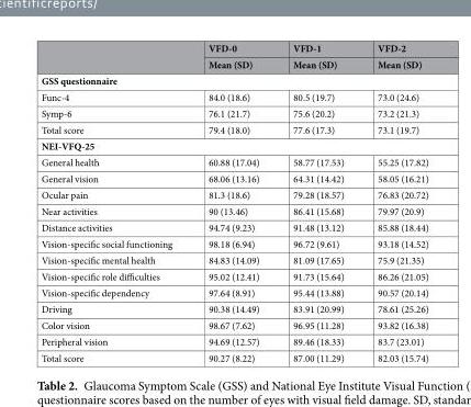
<table><thead><tr><td rowspan="2"></td><td rowspan="2">VFD-0 Mean (SD)</td><td rowspan="2">VFD-1 Mean (SD)</td><td rowspan="2">VFD-2 Mean (SD)</td></tr><tr></tr></thead><tbody><tr><td colspan="4">GSS questionnaire</td></tr><tr><td>Func-4</td><td>84.0 (18.6)</td><td>80.5 (19.7)</td><td>73.0 (24.6)</td></tr><tr><td>Symp-6</td><td>76.1 (21.7)</td><td>75.6 (20.2)</td><td>73.2 (21.3)</td></tr><tr><td>Total score</td><td>79.4 (18.0)</td><td>77.6 (17.3)</td><td>73.1 (19.7)</td></tr><tr><td colspan="4">NEI-VFQ-25</td></tr><tr><td>General health</td><td>60.88 (17.04)</td><td>58.77 (17.53)</td><td>55.25 (17.82)</td></tr><tr><td>General vision</td><td>68.06 (13.16)</td><td>64.31 (14.42)</td><td>58.05 (16.21)</td></tr><tr><td>Ocular pain</td><td>81.3 (18.6)</td><td>79.28 (18.57)</td><td>76.83 (20.72)</td></tr><tr><td>Near activities</td><td>90 (13.46)</td><td>86.41 (15.68)</td><td>79.97 (20.9)</td></tr><tr><td>Distance activities</td><td>94.74 (9.23)</td><td>91.48 (13.12)</td><td>85.88 (18.44)</td></tr><tr><td>Vision-specific social functioning</td><td>98.18 (6.94)</td><td>96.72 (9.61)</td><td>93.18 (14.52)</td></tr><tr><td>Vision-specific mental health</td><td>84.83 (14.09)</td><td>81.09 (17.65)</td><td>75.9 (21.35)</td></tr><tr><td>Vision-specific role difficulties</td><td>95.02 (12.41)</td><td>91.73 (15.64)</td><td>86.26 (21.05)</td></tr><tr><td>Vision-specific dependency</td><td>97.64 (8.91)</td><td>95.44 (13.88)</td><td>90.57 (20.14)</td></tr><tr><td>Driving</td><td>90.38 (14.49)</td><td>83.91 (20.99)</td><td>78.61 (25.26)</td></tr><tr><td>Color vision</td><td>98.67 (7.62)</td><td>96.95 (11.28)</td><td>93.82 (16.38)</td></tr><tr><td>Peripheral vision</td><td>94.69 (12.57)</td><td>89.46 (18.33)</td><td>83.7 (23.01)</td></tr><tr><td>Total score</td><td>90.27 (8.22)</td><td>87.00 (11.29)</td><td>82.03 (15.74)</td></tr></tbody></table>